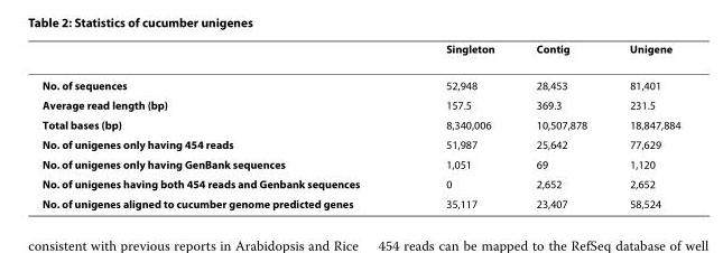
<table><thead><tr><td></td><td>Singleton</td><td>Contig</td><td>Unigene</td></tr></thead><tbody><tr><td>No. of sequences</td><td>52,948</td><td>28,453</td><td>81,401</td></tr><tr><td>Average read length (bp)</td><td>157.5</td><td>369.3</td><td>231.5</td></tr><tr><td>Total bases (bp)</td><td>8,340,006</td><td>10,507,878</td><td>18,847,884</td></tr><tr><td>No. of unigenes only having 454 reads</td><td>51,987</td><td>25,642</td><td>77,629</td></tr><tr><td>No. of unigenes only having GenBank sequences</td><td>1,051</td><td>69</td><td>1,120</td></tr><tr><td>No. of unigenes having both 454 reads and Genbank sequences</td><td>0</td><td>2,652</td><td>2,652</td></tr><tr><td>No. of unigenes aligned to cucumber genome predicted genes</td><td>35,117</td><td>23,407</td><td>58,524</td></tr></tbody></table>